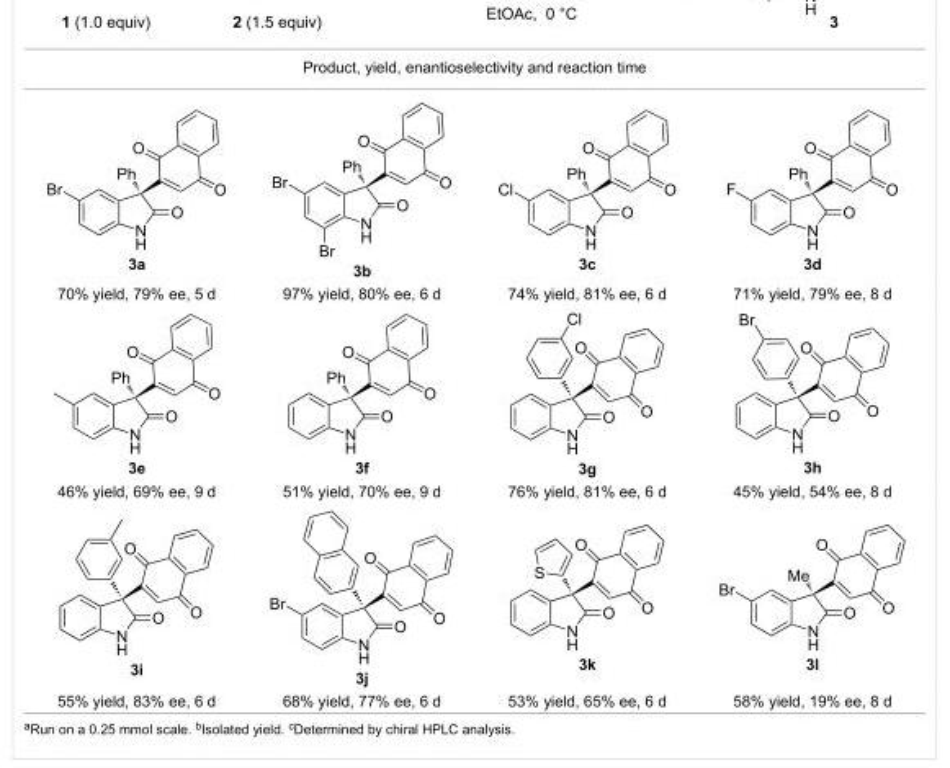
<table><tbody><tr><td colspan="4">Product, yield, enantioselectivity and reaction time</td></tr><tr><td>3a</td><td>3b</td><td>3c</td><td>3d</td></tr><tr><td>70% yield, 79% ee, 5 d</td><td>97% yield, 80% ee, 6 d</td><td>74% yield, 81% ee, 6 d</td><td>71% yield, 79% ee, 8 d</td></tr><tr><td>3e</td><td>3f</td><td>3g</td><td>3h</td></tr><tr><td>46% yield, 69% ee, 9 d</td><td>51% yield, 70% ee, 9 d</td><td>76% yield, 81% ee, 6 d</td><td>45% yield, 54% ee, 8 d</td></tr><tr><td>3i</td><td>3j</td><td>3k</td><td>3l</td></tr><tr><td>55% yield, 83% ee, 6 d</td><td>68% yield, 77% ee, 6 d</td><td>53% yield, 65% ee, 6 d</td><td>58% yield, 19% ee, 8 d</td></tr></tbody></table>